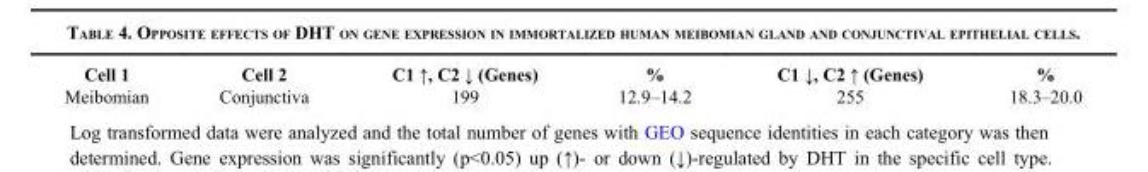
<table><thead><tr><td>Cell 1</td><td>Cell 2</td><td>C1 ↑, C2 ↓ (Genes)</td><td>%</td><td>C1 ↓, C2 ↑ (Genes)</td><td>%</td></tr></thead><tbody><tr><td>Meibomian</td><td>Conjunctiva</td><td>199</td><td>12.9–14.2</td><td>255</td><td>18.3–20.0</td></tr></tbody></table>